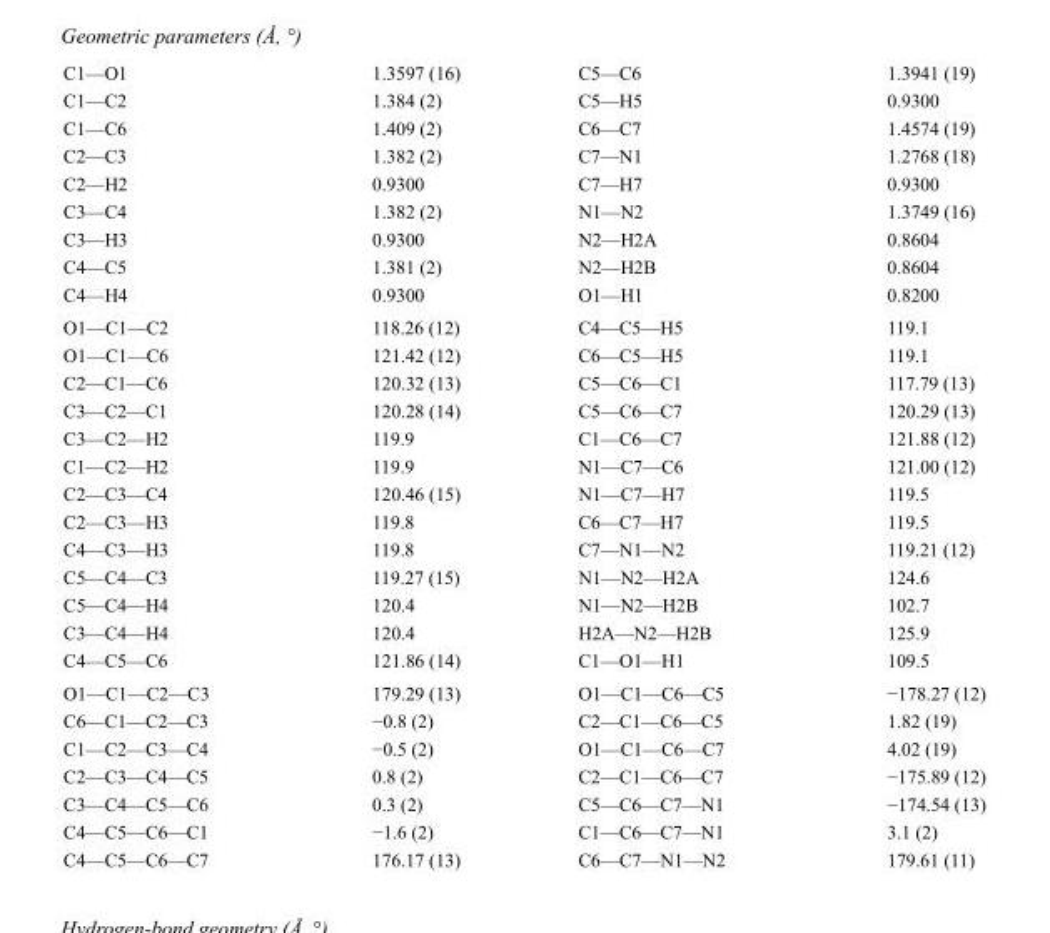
<table><tbody><tr><td>C1—O1</td><td>1.3597 (16)</td><td>C5—C6</td><td>1.3941 (19)</td></tr><tr><td>C1—C2</td><td>1.384 (2)</td><td>C5—H5</td><td>0.9300</td></tr><tr><td>C1—C6</td><td>1.409 (2)</td><td>C6—C7</td><td>1.4574 (19)</td></tr><tr><td>C2—C3</td><td>1.382 (2)</td><td>C7—N1</td><td>1.2768 (18)</td></tr><tr><td>C2—H2</td><td>0.9300</td><td>C7—H7</td><td>0.9300</td></tr><tr><td>C3—C4</td><td>1.382 (2)</td><td>N1—N2</td><td>1.3749 (16)</td></tr><tr><td>C3—H3</td><td>0.9300</td><td>N2—H2A</td><td>0.8604</td></tr><tr><td>C4—C5</td><td>1.381 (2)</td><td>N2—H2B</td><td>0.8604</td></tr><tr><td>C4—H4</td><td>0.9300</td><td>O1—H1</td><td>0.8200</td></tr><tr><td>O1—C1—C2</td><td>118.26 (12)</td><td>C4—C5—H5</td><td>119.1</td></tr><tr><td>O1—C1—C6</td><td>121.42 (12)</td><td>C6—C5—H5</td><td>119.1</td></tr><tr><td>C2—C1—C6</td><td>120.32 (13)</td><td>C5—C6—C1</td><td>117.79 (13)</td></tr><tr><td>C3—C2—C1</td><td>120.28 (14)</td><td>C5—C6—C7</td><td>120.29 (13)</td></tr><tr><td>C3—C2—H2</td><td>119.9</td><td>C1—C6—C7</td><td>121.88 (12)</td></tr><tr><td>C1—C2—H2</td><td>119.9</td><td>N1—C7—C6</td><td>121.00 (12)</td></tr><tr><td>C2—C3—C4</td><td>120.46 (15)</td><td>N1—C7—H7</td><td>119.5</td></tr><tr><td>C2—C3—H3</td><td>119.8</td><td>C6—C7—H7</td><td>119.5</td></tr><tr><td>C4—C3—H3</td><td>119.8</td><td>C7—N1—N2</td><td>119.21 (12)</td></tr><tr><td>C5—C4—C3</td><td>119.27 (15)</td><td>N1—N2—H2A</td><td>124.6</td></tr><tr><td>C5—C4—H4</td><td>120.4</td><td>N1—N2—H2B</td><td>102.7</td></tr><tr><td>C3—C4—H4</td><td>120.4</td><td>H2A—N2—H2B</td><td>125.9</td></tr><tr><td>C4—C5—C6</td><td>121.86 (14)</td><td>C1—O1—H1</td><td>109.5</td></tr><tr><td>O1—C1—C2—C3</td><td>179.29 (13)</td><td>O1—C1—C6—C5</td><td>−178.27 (12)</td></tr><tr><td>C6—C1—C2—C3</td><td>−0.8 (2)</td><td>C2—C1—C6—C5</td><td>1.82 (19)</td></tr><tr><td>C1—C2—C3—C4</td><td>−0.5 (2)</td><td>O1—C1—C6—C7</td><td>4.02 (19)</td></tr><tr><td>C2—C3—C4—C5</td><td>0.8 (2)</td><td>C2—C1—C6—C7</td><td>−175.89 (12)</td></tr><tr><td>C3—C4—C5—C6</td><td>0.3 (2)</td><td>C5—C6—C7—N1</td><td>−174.54 (13)</td></tr><tr><td>C4—C5—C6—C1</td><td>−1.6 (2)</td><td>C1—C6—C7—N1</td><td>3.1 (2)</td></tr><tr><td>C4—C5—C6—C7</td><td>176.17 (13)</td><td>C6—C7—N1—N2</td><td>179.61 (11)</td></tr></tbody></table>